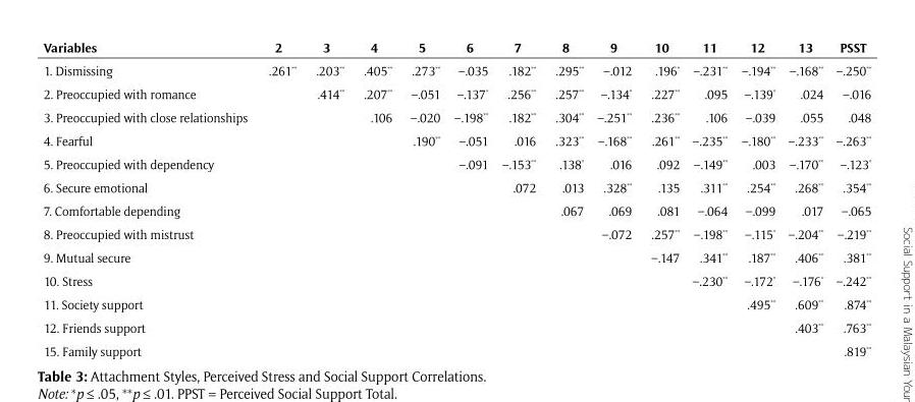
<table><thead><tr><td>Variables</td><td>2</td><td>3</td><td>4</td><td>5</td><td>6</td><td>7</td><td>8</td><td>9</td><td>10</td><td>11</td><td>12</td><td>13</td><td>PSST</td></tr></thead><tbody><tr><td>1. Dismissing</td><td>.261**</td><td>.203**</td><td>.405**</td><td>.273**</td><td>−.035</td><td>.182**</td><td>.295**</td><td>−.012</td><td>.196*</td><td>−.231**</td><td>−.194**</td><td>−.168**</td><td>−.250**</td></tr><tr><td>2. Preoccupied with romance</td><td></td><td>.414**</td><td>.207**</td><td>−.051</td><td>−.137*</td><td>.256**</td><td>.257**</td><td>−.134*</td><td>.227**</td><td>.095</td><td>−.139*</td><td>.024</td><td>−.016</td></tr><tr><td>3. Preoccupied with close relationships</td><td></td><td></td><td>.106</td><td>−.020</td><td>−.198**</td><td>.182**</td><td>.304**</td><td>−.251**</td><td>.236**</td><td>.106</td><td>−.039</td><td>.055</td><td>.048</td></tr><tr><td>4. Fearful</td><td></td><td></td><td></td><td>.190**</td><td>−.051</td><td>.016</td><td>.323**</td><td>−.168**</td><td>.261**</td><td>−.235**</td><td>−.180**</td><td>−.233**</td><td>−.263**</td></tr><tr><td>5. Preoccupied with dependency</td><td></td><td></td><td></td><td></td><td>−.091</td><td>−.153**</td><td>.138*</td><td>.016</td><td>.092</td><td>−.149**</td><td>.003</td><td>−.170**</td><td>−.123*</td></tr><tr><td>6. Secure emotional</td><td></td><td></td><td></td><td></td><td></td><td>.072</td><td>.013</td><td>.328**</td><td>.135</td><td>.311**</td><td>.254**</td><td>.268**</td><td>.354**</td></tr><tr><td>7. Comfortable depending</td><td></td><td></td><td></td><td></td><td></td><td></td><td>.067</td><td>.069</td><td>.081</td><td>−.064</td><td>−.099</td><td>.017</td><td>−.065</td></tr><tr><td>8. Preoccupied with mistrust</td><td></td><td></td><td></td><td></td><td></td><td></td><td></td><td>−.072</td><td>.257**</td><td>−.198**</td><td>−.115*</td><td>−.204**</td><td>−.219**</td></tr><tr><td>9. Mutual secure</td><td></td><td></td><td></td><td></td><td></td><td></td><td></td><td></td><td>−.147</td><td>.341**</td><td>.187**</td><td>.406**</td><td>.381**</td></tr><tr><td>10. Stress</td><td></td><td></td><td></td><td></td><td></td><td></td><td></td><td></td><td></td><td>−.230**</td><td>−.172*</td><td>−.176*</td><td>−.242**</td></tr><tr><td>11. Society support</td><td></td><td></td><td></td><td></td><td></td><td></td><td></td><td></td><td></td><td></td><td>.495**</td><td>.609**</td><td>.874**</td></tr><tr><td>12. Friends support</td><td></td><td></td><td></td><td></td><td></td><td></td><td></td><td></td><td></td><td></td><td></td><td>.403**</td><td>.763**</td></tr><tr><td>15. Family support</td><td></td><td></td><td></td><td></td><td></td><td></td><td></td><td></td><td></td><td></td><td></td><td></td><td>.819**</td></tr></tbody></table>